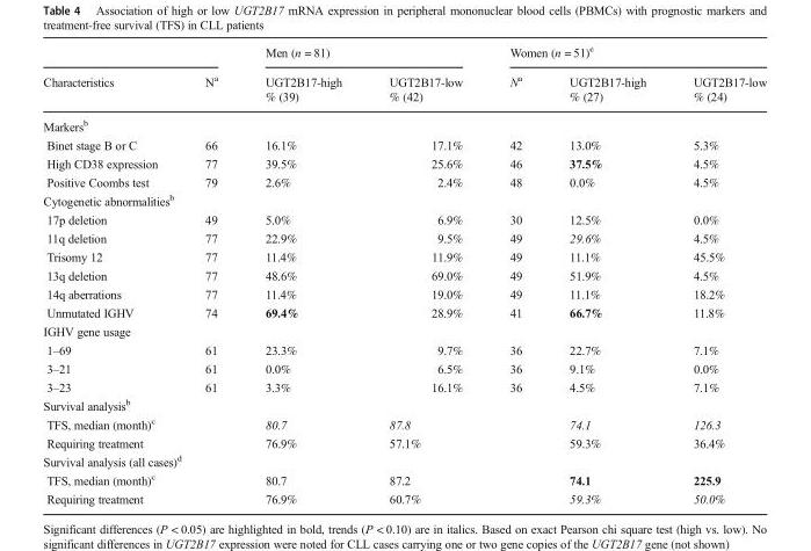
<table><thead><tr><td rowspan="3">Characteristics</td><td rowspan="3">Na</td><td colspan="2">Men (n = 81)</td><td colspan="3">Women (n = 51)<sup>e</sup></td></tr><tr><td rowspan="2">UGT2B17-high % (39)</td><td rowspan="2">UGT2B17-low % (42)</td><td rowspan="2">Na</td><td rowspan="2">UGT2B17-high % (27)</td><td rowspan="2">UGT2B17-low % (24)</td></tr><tr></tr></thead><tbody><tr><td colspan="7">Markers<sup>b</sup></td></tr><tr><td>Binet stage B or C</td><td>66</td><td>16.1%</td><td>17.1%</td><td>42</td><td>13.0%</td><td>5.3%</td></tr><tr><td>High CD38 expression</td><td>77</td><td>39.5%</td><td>25.6%</td><td>46</td><td>37.5%</td><td>4.5%</td></tr><tr><td>Positive Coombs test</td><td>79</td><td>2.6%</td><td>2.4%</td><td>48</td><td>0.0%</td><td>4.5%</td></tr><tr><td colspan="7">Cytogenetic abnormalities<sup>b</sup></td></tr><tr><td>17p deletion</td><td>49</td><td>5.0%</td><td>6.9%</td><td>30</td><td>12.5%</td><td>0.0%</td></tr><tr><td>11q deletion</td><td>77</td><td>22.9%</td><td>9.5%</td><td>49</td><td>29.6%</td><td>4.5%</td></tr><tr><td>Trisomy 12</td><td>77</td><td>11.4%</td><td>11.9%</td><td>49</td><td>11.1%</td><td>45.5%</td></tr><tr><td>13q deletion</td><td>77</td><td>48.6%</td><td>69.0%</td><td>49</td><td>51.9%</td><td>4.5%</td></tr><tr><td>14q aberrations</td><td>77</td><td>11.4%</td><td>19.0%</td><td>49</td><td>11.1%</td><td>18.2%</td></tr><tr><td>Unmutated IGHV</td><td>74</td><td>69.4%</td><td>28.9%</td><td>41</td><td>66.7%</td><td>11.8%</td></tr><tr><td colspan="7">IGHV gene usage</td></tr><tr><td>1–69</td><td>61</td><td>23.3%</td><td>9.7%</td><td>36</td><td>22.7%</td><td>7.1%</td></tr><tr><td>3–21</td><td>61</td><td>0.0%</td><td>6.5%</td><td>36</td><td>9.1%</td><td>0.0%</td></tr><tr><td>3–23</td><td>61</td><td>3.3%</td><td>16.1%</td><td>36</td><td>4.5%</td><td>7.1%</td></tr><tr><td colspan="7">Survival analysis<sup>b</sup></td></tr><tr><td>TFS, median (month)<sup>c</sup></td><td></td><td>80.7</td><td>87.8</td><td></td><td>74.1</td><td>126.3</td></tr><tr><td>Requiring treatment</td><td></td><td>76.9%</td><td>57.1%</td><td></td><td>59.3%</td><td>36.4%</td></tr><tr><td colspan="7">Survival analysis (all cases)<sup>d</sup></td></tr><tr><td>TFS, median (month)<sup>c</sup></td><td></td><td>80.7</td><td>87.2</td><td></td><td>74.1</td><td>225.9</td></tr><tr><td>Requiring treatment</td><td></td><td>76.9%</td><td>60.7%</td><td></td><td>59.3%</td><td>50.0%</td></tr></tbody></table>